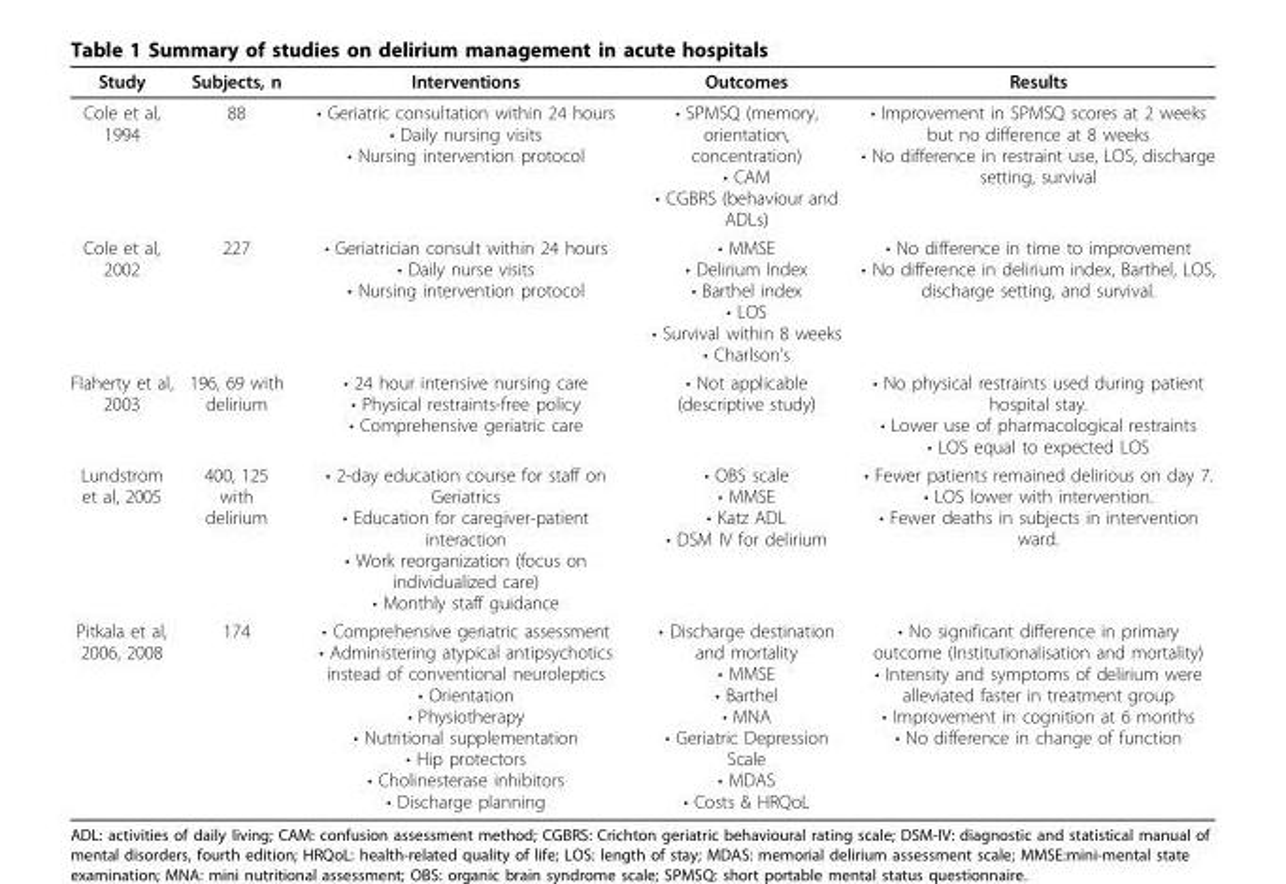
<table><thead><tr><td>Study</td><td>Subjects, n</td><td>Interventions</td><td>Outcomes</td><td>Results</td></tr></thead><tbody><tr><td>Cole et al, 1994</td><td>88</td><td>• Geriatric consultation within 24 hours • Daily nursing visits • Nursing intervention protocol</td><td>• SPMSQ (memory, orientation, concentration) • CAM • CGBRS (behaviour and ADLs)</td><td>• Improvement in SPMSQ scores at 2 weeks but no difference at 8 weeks • No difference in restraint use, LOS, discharge setting, survival</td></tr><tr><td>Cole et al, 2002</td><td>227</td><td>• Geriatrician consult within 24 hours • Daily nurse visits • Nursing intervention protocol</td><td>• MMSE • Delirium Index • Barthel index • LOS • Survival within 8 weeks • Charlson’s</td><td>• No difference in time to improvement • No difference in delirium index, Barthel, LOS, discharge setting, and survival.</td></tr><tr><td>Flaherty et al, 2003</td><td>196, 69 with delirium</td><td>• 24 hour intensive nursing care • Physical restraints-free policy • Comprehensive geriatric care</td><td>• Not applicable (descriptive study)</td><td>• No physical restraints used during patient hospital stay. • Lower use of pharmacological restraints • LOS equal to expected LOS</td></tr><tr><td>Lundstrom et al, 2005</td><td>400, 125 with delirium</td><td>• 2-day education course for staff on Geriatrics • Education for caregiver-patient interaction • Work reorganization (focus on individualized care) • Monthly staff guidance</td><td>• OBS scale • MMSE • Katz ADL • DSM IV for delirium</td><td>• Fewer patients remained delirious on day 7. • LOS lower with intervention. • Fewer deaths in subjects in intervention ward.</td></tr><tr><td>Pitkala et al, 2006, 2008</td><td>174</td><td>• Comprehensive geriatric assessment • Administering atypical antipsychotics instead of conventional neuroleptics • Orientation • Physiotherapy • Nutritional supplementation • Hip protectors • Cholinesterase inhibitors • Discharge planning</td><td>• Discharge destination and mortality • MMSE • Barthel • MNA • Geriatric Depression Scale • MDAS • Costs &amp; HRQoL</td><td>• No significant difference in primary outcome (Institutionalisation and mortality) • Intensity and symptoms of delirium were alleviated faster in treatment group • Improvement in cognition at 6 months • No difference in change of function</td></tr></tbody></table>